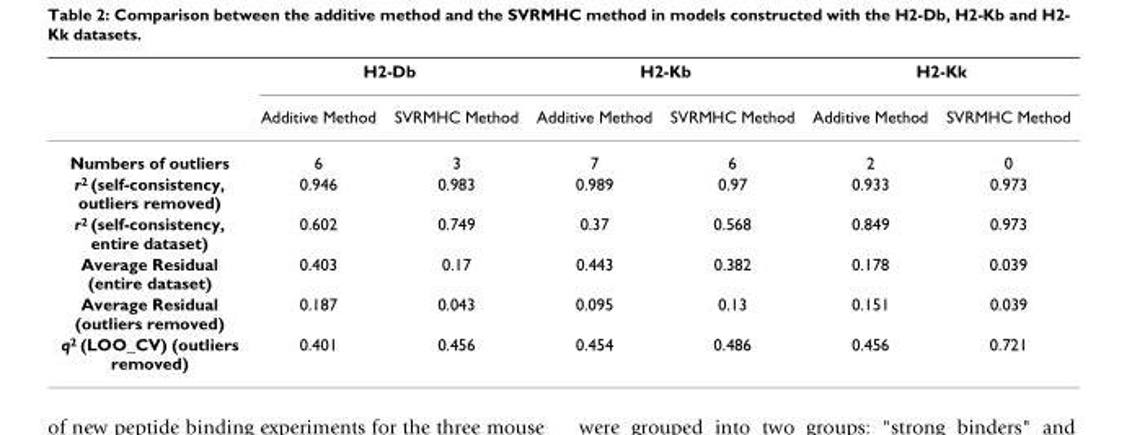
<table><thead><tr><td rowspan="2"></td><td colspan="2">H2-Db</td><td colspan="2">H2-Kb</td><td colspan="2">H2-Kk</td></tr><tr><td>Additive Method</td><td>SVRMHC Method</td><td>Additive Method</td><td>SVRMHC Method</td><td>Additive Method</td><td>SVRMHC Method</td></tr></thead><tbody><tr><td>Numbers of outliers</td><td>6</td><td>3</td><td>7</td><td>6</td><td>2</td><td>0</td></tr><tr><td>r2 (self-consistency, outliers removed)</td><td>0.946</td><td>0.983</td><td>0.989</td><td>0.97</td><td>0.933</td><td>0.973</td></tr><tr><td>r2 (self-consistency, entire dataset)</td><td>0.602</td><td>0.749</td><td>0.37</td><td>0.568</td><td>0.849</td><td>0.973</td></tr><tr><td>Average Residual (entire dataset)</td><td>0.403</td><td>0.17</td><td>0.443</td><td>0.382</td><td>0.178</td><td>0.039</td></tr><tr><td>Average Residual (outliers removed)</td><td>0.187</td><td>0.043</td><td>0.095</td><td>0.13</td><td>0.151</td><td>0.039</td></tr><tr><td>q2 (LOO_CV) (outliers removed)</td><td>0.401</td><td>0.456</td><td>0.454</td><td>0.486</td><td>0.456</td><td>0.721</td></tr></tbody></table>